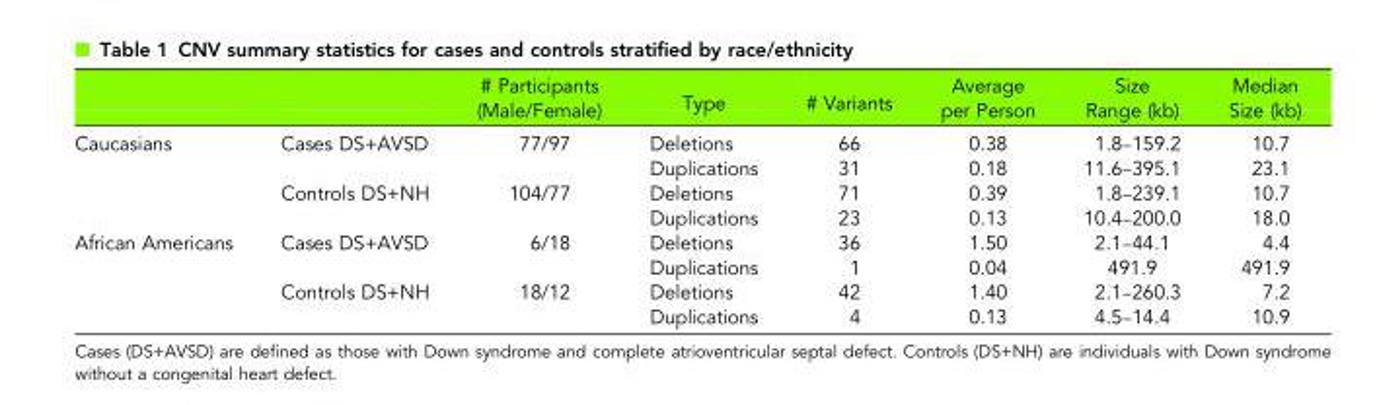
<table><thead><tr><td></td><td></td><td># Participants (Male/Female)</td><td>Type</td><td># Variants</td><td>Average per Person</td><td>Size Range (kb)</td><td>Median Size (kb)</td></tr></thead><tbody><tr><td rowspan="4">Caucasians</td><td rowspan="2">Cases DS+AVSD</td><td rowspan="2">77/97</td><td>Deletions</td><td>66</td><td>0.38</td><td>1.8–159.2</td><td>10.7</td></tr><tr><td>Duplications</td><td>31</td><td>0.18</td><td>11.6–395.1</td><td>23.1</td></tr><tr><td rowspan="2">Controls DS+NH</td><td rowspan="2">104/77</td><td>Deletions</td><td>71</td><td>0.39</td><td>1.8–239.1</td><td>10.7</td></tr><tr><td>Duplications</td><td>23</td><td>0.13</td><td>10.4–200.0</td><td>18.0</td></tr><tr><td rowspan="4">African Americans</td><td rowspan="2">Cases DS+AVSD</td><td rowspan="2">6/18</td><td>Deletions</td><td>36</td><td>1.50</td><td>2.1–44.1</td><td>4.4</td></tr><tr><td>Duplications</td><td>1</td><td>0.04</td><td>491.9</td><td>491.9</td></tr><tr><td rowspan="2">Controls DS+NH</td><td rowspan="2">18/12</td><td>Deletions</td><td>42</td><td>1.40</td><td>2.1–260.3</td><td>7.2</td></tr><tr><td>Duplications</td><td>4</td><td>0.13</td><td>4.5–14.4</td><td>10.9</td></tr></tbody></table>